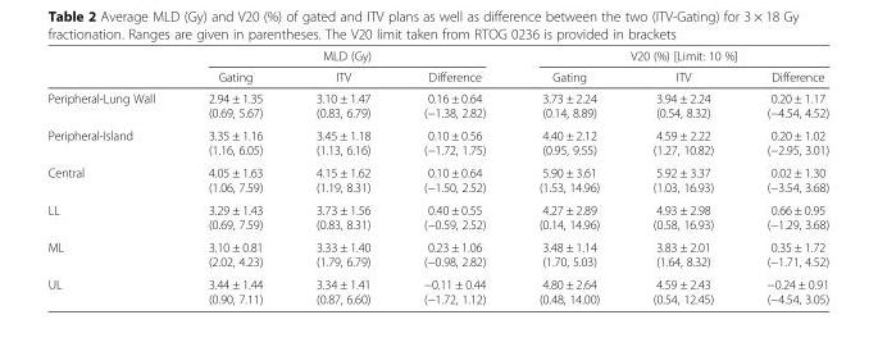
<table><thead><tr><td rowspan="2"></td><td colspan="3">MLD (Gy)</td><td colspan="3">V20 (%) [Limit: 10 %]</td></tr><tr><td>Gating</td><td>ITV</td><td>Difference</td><td>Gating</td><td>ITV</td><td>Difference</td></tr></thead><tbody><tr><td>Peripheral-Lung Wall</td><td>2.94 ± 1.35 (0.69, 5.67)</td><td>3.10 ± 1.47 (0.83, 6.79)</td><td>0.16 ± 0.64 (−1.38, 2.82)</td><td>3.73 ± 2.24 (0.14, 8.89)</td><td>3.94 ± 2.24 (0.54, 8.32)</td><td>0.20 ± 1.17 (−4.54, 4.52)</td></tr><tr><td>Peripheral-Island</td><td>3.35 ± 1.16 (1.16, 6.05)</td><td>3.45 ± 1.18 (1.13, 6.16)</td><td>0.10 ± 0.56 (−1.72, 1.75)</td><td>4.40 ± 2.12 (0.95, 9.55)</td><td>4.59 ± 2.22 (1.27, 10.82)</td><td>0.20 ± 1.02 (−2.95, 3.01)</td></tr><tr><td>Central</td><td>4.05 ± 1.63 (1.06, 7.59)</td><td>4.15 ± 1.62 (1.19, 8.31)</td><td>0.10 ± 0.64 (−1.50, 2.52)</td><td>5.90 ± 3.61 (1.53, 14.96)</td><td>5.92 ± 3.37 (1.03, 16.93)</td><td>0.02 ± 1.30 (−3.54, 3.68)</td></tr><tr><td>LL</td><td>3.29 ± 1.43 (0.69, 7.59)</td><td>3.73 ± 1.56 (0.83, 8.31)</td><td>0.40 ± 0.55 (−0.59, 2.52)</td><td>4.27 ± 2.89 (0.14, 14.96)</td><td>4.93 ± 2.98 (0.58, 16.93)</td><td>0.66 ± 0.95 (−1.29, 3.68)</td></tr><tr><td>ML</td><td>3.10 ± 0.81 (2.02, 4.23)</td><td>3.33 ± 1.40 (1.79, 6.79)</td><td>0.23 ± 1.06 (−0.98, 2.82)</td><td>3.48 ± 1.14 (1.70, 5.03)</td><td>3.83 ± 2.01 (1.64, 8.32)</td><td>0.35 ± 1.72 (−1.71, 4.52)</td></tr><tr><td>UL</td><td>3.44 ± 1.44 (0.90, 7.11)</td><td>3.34 ± 1.41 (0.87, 6.60)</td><td>−0.11 ± 0.44 (−1.72, 1.12)</td><td>4.80 ± 2.64 (0.48, 14.00)</td><td>4.59 ± 2.43 (0.54, 12.45)</td><td>−0.24 ± 0.91 (−4.54, 3.05)</td></tr></tbody></table>